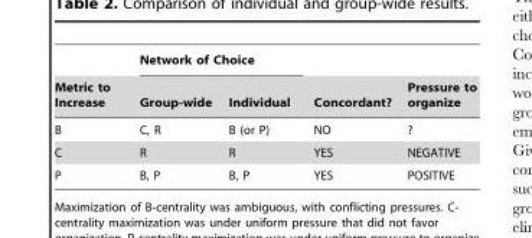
<table><thead><tr><td rowspan="2">Metric to Increase</td><td colspan="2">Network of Choice</td><td rowspan="2">Concordant?</td><td rowspan="2">Pressure to organize</td></tr><tr><td>Group-wide</td><td>Individual</td></tr></thead><tbody><tr><td>B</td><td>C, R</td><td>B (or P)</td><td>NO</td><td>?</td></tr><tr><td>C</td><td>R</td><td>R</td><td>YES</td><td>NEGATIVE</td></tr><tr><td>P</td><td>B, P</td><td>B, P</td><td>YES</td><td>POSITIVE</td></tr></tbody></table>